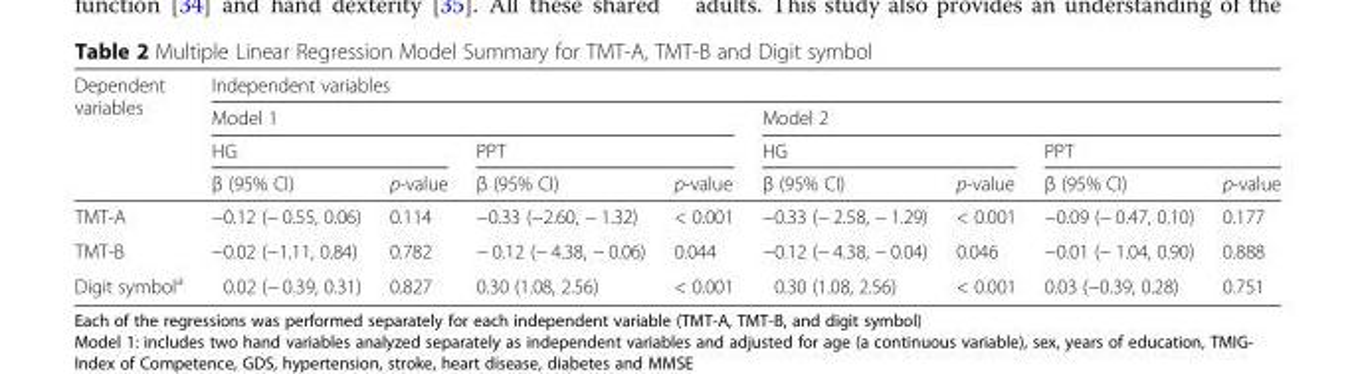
<table><thead><tr><td rowspan="4">Dependent variables</td><td colspan="8">Independent variables</td></tr><tr><td colspan="4">Model 1</td><td colspan="4">Model 2</td></tr><tr><td colspan="2">HG</td><td colspan="2">PPT</td><td colspan="2">HG</td><td colspan="2">PPT</td></tr><tr><td>β (95% CI)</td><td>p-value</td><td>β (95% CI)</td><td>p-value</td><td>β (95% CI)</td><td>p-value</td><td>β (95% CI)</td><td>p-value</td></tr></thead><tbody><tr><td>TMT-A</td><td>−0.12 (− 0.55, 0.06)</td><td>0.114</td><td>−0.33 (−2.60, − 1.32)</td><td>&lt; 0.001</td><td>−0.33 (− 2.58, − 1.29)</td><td>&lt; 0.001</td><td>−0.09 (− 0.47, 0.10)</td><td>0.177</td></tr><tr><td>TMT-B</td><td>−0.02 (−1.11, 0.84)</td><td>0.782</td><td>− 0.12 (− 4.38, − 0.06)</td><td>0.044</td><td>−0.12 (− 4.38, − 0.04)</td><td>0.046</td><td>−0.01 (− 1.04, 0.90)</td><td>0.888</td></tr><tr><td>Digit symbol<sup>a</sup></td><td>0.02 (− 0.39, 0.31)</td><td>0.827</td><td>0.30 (1.08, 2.56)</td><td>&lt; 0.001</td><td>0.30 (1.08, 2.56)</td><td>&lt; 0.001</td><td>0.03 (−0.39, 0.28)</td><td>0.751</td></tr></tbody></table>